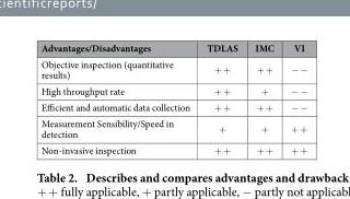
<table><thead><tr><td>Advantages/Disadvantages</td><td>TDLAS</td><td>IMC</td><td>VI</td></tr></thead><tbody><tr><td>Objective inspection (quantitative results)</td><td>+ +</td><td>+ +</td><td>− −</td></tr><tr><td>High throughput rate</td><td>+ +</td><td>+</td><td>− −</td></tr><tr><td>Efficient and automatic data collection</td><td>+ +</td><td>+ +</td><td>− −</td></tr><tr><td>Measurement Sensibility/Speed in detection</td><td>+</td><td>+</td><td>+ +</td></tr><tr><td>Non-invasive inspection</td><td>+ +</td><td>+ +</td><td>+ +</td></tr></tbody></table>